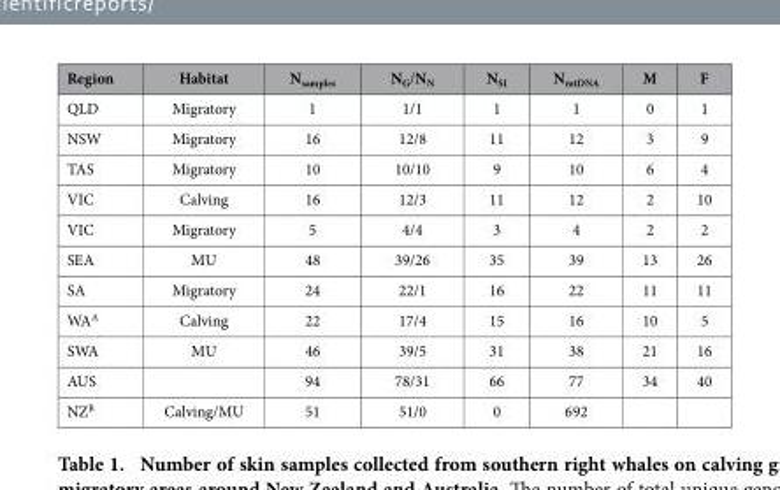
<table><thead><tr><td>Region</td><td>Habitat</td><td>N<sub>samples</sub></td><td>N<sub>G</sub>/N<sub>N</sub></td><td>N<sub>SI</sub></td><td>N<sub>mtDNA</sub></td><td>M</td><td>F</td></tr></thead><tbody><tr><td>QLD</td><td>Migratory</td><td>1</td><td>1/1</td><td>1</td><td>1</td><td>0</td><td>1</td></tr><tr><td>NSW</td><td>Migratory</td><td>16</td><td>12/8</td><td>11</td><td>12</td><td>3</td><td>9</td></tr><tr><td>TAS</td><td>Migratory</td><td>10</td><td>10/10</td><td>9</td><td>10</td><td>6</td><td>4</td></tr><tr><td>VIC</td><td>Calving</td><td>16</td><td>12/3</td><td>11</td><td>12</td><td>2</td><td>10</td></tr><tr><td>VIC</td><td>Migratory</td><td>5</td><td>4/4</td><td>3</td><td>4</td><td>2</td><td>2</td></tr><tr><td>SEA</td><td>MU</td><td>48</td><td>39/26</td><td>35</td><td>39</td><td>13</td><td>26</td></tr><tr><td>SA</td><td>Migratory</td><td>24</td><td>22/1</td><td>16</td><td>22</td><td>11</td><td>11</td></tr><tr><td>WA<sup>A</sup></td><td>Calving</td><td>22</td><td>17/4</td><td>15</td><td>16</td><td>10</td><td>5</td></tr><tr><td>SWA</td><td>MU</td><td>46</td><td>39/5</td><td>31</td><td>38</td><td>21</td><td>16</td></tr><tr><td>AUS</td><td></td><td>94</td><td>78/31</td><td>66</td><td>77</td><td>34</td><td>40</td></tr><tr><td>NZ<sup>B</sup></td><td>Calving/MU</td><td>51</td><td>51/0</td><td>0</td><td>692</td><td></td><td></td></tr></tbody></table>